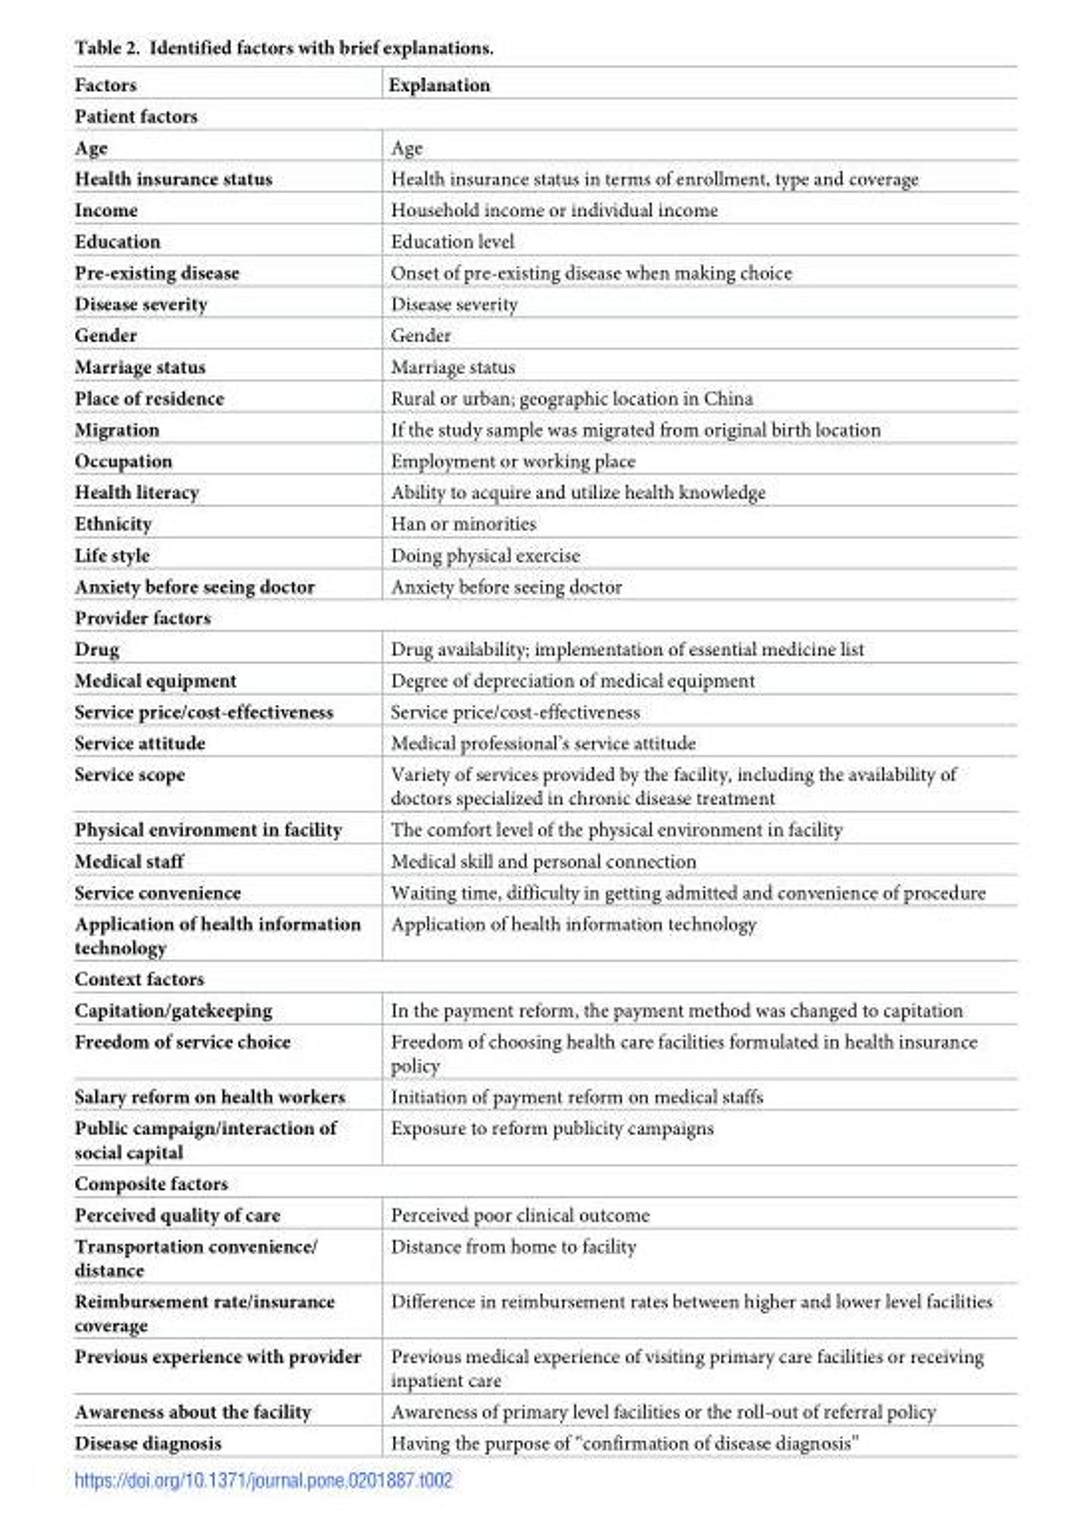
<table><thead><tr><td>Factors</td><td>Explanation</td></tr></thead><tbody><tr><td colspan="2">Patient factors</td></tr><tr><td>Age</td><td>Age</td></tr><tr><td>Health insurance status</td><td>Health insurance status in terms of enrollment, type and coverage</td></tr><tr><td>Income</td><td>Household income or individual income</td></tr><tr><td>Education</td><td>Education level</td></tr><tr><td>Pre-existing disease</td><td>Onset of pre-existing disease when making choice</td></tr><tr><td>Disease severity</td><td>Disease severity</td></tr><tr><td>Gender</td><td>Gender</td></tr><tr><td>Marriage status</td><td>Marriage status</td></tr><tr><td>Place of residence</td><td>Rural or urban; geographic location in China</td></tr><tr><td>Migration</td><td>If the study sample was migrated from original birth location</td></tr><tr><td>Occupation</td><td>Employment or working place</td></tr><tr><td>Health literacy</td><td>Ability to acquire and utilize health knowledge</td></tr><tr><td>Ethnicity</td><td>Han or minorities</td></tr><tr><td>Life style</td><td>Doing physical exercise</td></tr><tr><td>Anxiety before seeing doctor</td><td>Anxiety before seeing doctor</td></tr><tr><td colspan="2">Provider factors</td></tr><tr><td>Drug</td><td>Drug availability; implementation of essential medicine list</td></tr><tr><td>Medical equipment</td><td>Degree of depreciation of medical equipment</td></tr><tr><td>Service price/cost-effectiveness</td><td>Service price/cost-effectiveness</td></tr><tr><td>Service attitude</td><td>Medical professional’s service attitude</td></tr><tr><td>Service scope</td><td>Variety of services provided by the facility, including the availability of doctors specialized in chronic disease treatment</td></tr><tr><td>Physical environment in facility</td><td>The comfort level of the physical environment in facility</td></tr><tr><td>Medical staff</td><td>Medical skill and personal connection</td></tr><tr><td>Service convenience</td><td>Waiting time, difficulty in getting admitted and convenience of procedure</td></tr><tr><td>Application of health information technology</td><td>Application of health information technology</td></tr><tr><td colspan="2">Context factors</td></tr><tr><td>Capitation/gatekeeping</td><td>In the payment reform, the payment method was changed to capitation</td></tr><tr><td>Freedom of service choice</td><td>Freedom of choosing health care facilities formulated in health insurance policy</td></tr><tr><td>Salary reform on health workers</td><td>Initiation of payment reform on medical staffs</td></tr><tr><td>Public campaign/interaction of social capital</td><td>Exposure to reform publicity campaigns</td></tr><tr><td colspan="2">Composite factors</td></tr><tr><td>Perceived quality of care</td><td>Perceived poor clinical outcome</td></tr><tr><td>Transportation convenience/ distance</td><td>Distance from home to facility</td></tr><tr><td>Reimbursement rate/insurance coverage</td><td>Difference in reimbursement rates between higher and lower level facilities</td></tr><tr><td>Previous experience with provider</td><td>Previous medical experience of visiting primary care facilities or receiving inpatient care</td></tr><tr><td>Awareness about the facility</td><td>Awareness of primary level facilities or the roll-out of referral policy</td></tr><tr><td>Disease diagnosis</td><td>Having the purpose of “confirmation of disease diagnosis”</td></tr></tbody></table>